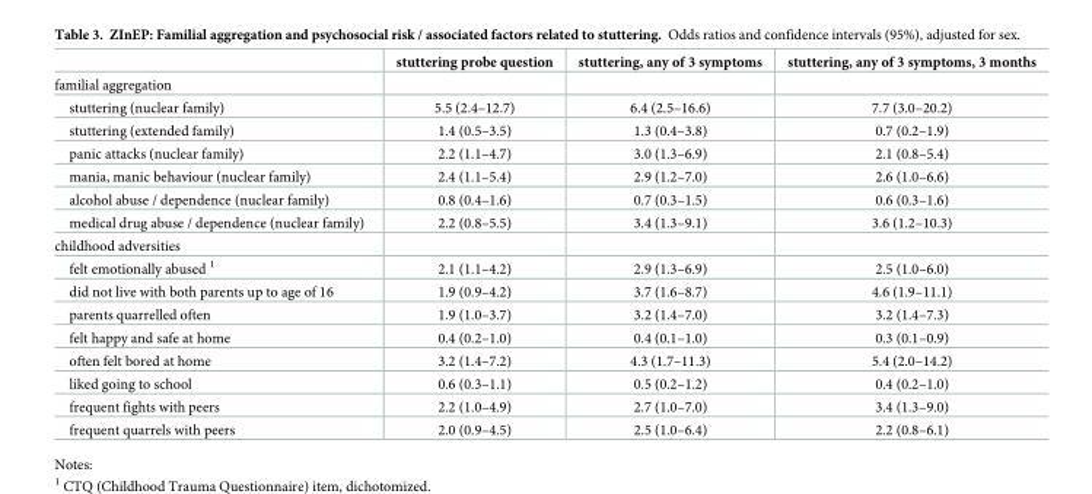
<table><thead><tr><td></td><td>stuttering probe question</td><td>stuttering, any of 3 symptoms</td><td>stuttering, any of 3 symptoms, 3 months</td></tr></thead><tbody><tr><td colspan="4">familial aggregation</td></tr><tr><td>stuttering (nuclear family)</td><td>5.5 (2.4–12.7)</td><td>6.4 (2.5–16.6)</td><td>7.7 (3.0–20.2)</td></tr><tr><td>stuttering (extended family)</td><td>1.4 (0.5–3.5)</td><td>1.3 (0.4–3.8)</td><td>0.7 (0.2–1.9)</td></tr><tr><td>panic attacks (nuclear family)</td><td>2.2 (1.1–4.7)</td><td>3.0 (1.3–6.9)</td><td>2.1 (0.8–5.4)</td></tr><tr><td>mania, manic behaviour (nuclear family)</td><td>2.4 (1.1–5.4)</td><td>2.9 (1.2–7.0)</td><td>2.6 (1.0–6.6)</td></tr><tr><td>alcohol abuse / dependence (nuclear family)</td><td>0.8 (0.4–1.6)</td><td>0.7 (0.3–1.5)</td><td>0.6 (0.3–1.6)</td></tr><tr><td>medical drug abuse / dependence (nuclear family)</td><td>2.2 (0.8–5.5)</td><td>3.4 (1.3–9.1)</td><td>3.6 (1.2–10.3)</td></tr><tr><td colspan="4">childhood adversities</td></tr><tr><td>felt emotionally abused <sup>1</sup></td><td>2.1 (1.1–4.2)</td><td>2.9 (1.3–6.9)</td><td>2.5 (1.0–6.0)</td></tr><tr><td>did not live with both parents up to age of 16</td><td>1.9 (0.9–4.2)</td><td>3.7 (1.6–8.7)</td><td>4.6 (1.9–11.1)</td></tr><tr><td>parents quarrelled often</td><td>1.9 (1.0–3.7)</td><td>3.2 (1.4–7.0)</td><td>3.2 (1.4–7.3)</td></tr><tr><td>felt happy and safe at home</td><td>0.4 (0.2–1.0)</td><td>0.4 (0.1–1.0)</td><td>0.3 (0.1–0.9)</td></tr><tr><td>often felt bored at home</td><td>3.2 (1.4–7.2)</td><td>4.3 (1.7–11.3)</td><td>5.4 (2.0–14.2)</td></tr><tr><td>liked going to school</td><td>0.6 (0.3–1.1)</td><td>0.5 (0.2–1.2)</td><td>0.4 (0.2–1.0)</td></tr><tr><td>frequent fights with peers</td><td>2.2 (1.0–4.9)</td><td>2.7 (1.0–7.0)</td><td>3.4 (1.3–9.0)</td></tr><tr><td>frequent quarrels with peers</td><td>2.0 (0.9–4.5)</td><td>2.5 (1.0–6.4)</td><td>2.2 (0.8–6.1)</td></tr></tbody></table>